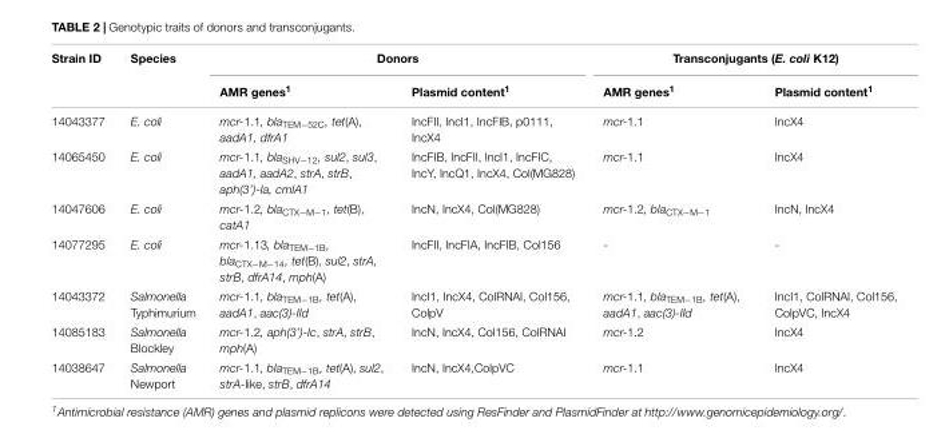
<table><thead><tr><td rowspan="2">Strain ID</td><td rowspan="2">Species</td><td colspan="2">Donors</td><td colspan="2">Transconjugants (E. coli K12)</td></tr><tr><td>AMR genes<sup>1</sup></td><td>Plasmid content<sup>1</sup></td><td>AMR genes<sup>1</sup></td><td>Plasmid content<sup>1</sup></td></tr></thead><tbody><tr><td>14043377</td><td>E. coli</td><td>mcr-1.1, bla<sub>TEM−52C</sub>, tet(A), aadA1, dfrA1</td><td>IncFII, IncI1, IncFIB, p0111, IncX4</td><td>mcr-1.1</td><td>IncX4</td></tr><tr><td>14065450</td><td>E. coli</td><td>mcr-1.1, bla<sub>SHV−12</sub>, sul2, sul3, aadA1, aadA2, strA, strB, aph(3’)-Ia, cmlA1</td><td>IncFIB, IncFII, IncI1, IncFIC, IncY, IncQ1, IncX4, Col(MG828)</td><td>mcr-1.1</td><td>IncX4</td></tr><tr><td>14047606</td><td>E. coli</td><td>mcr-1.2, bla<sub>CTX−M−1</sub>, tet(B), catA1</td><td>IncN, IncX4, Col(MG828)</td><td>mcr-1.2, bla<sub>CTX−M−1</sub></td><td>IncN, IncX4</td></tr><tr><td>14077295</td><td>E. coli</td><td>mcr-1.13, bla<sub>TEM−1B</sub>, bla<sub>CTX−M−14</sub>, tet(B), sul2, strA, strB, dfrA14, mph(A)</td><td>IncFII, IncFIA, IncFIB, Col156</td><td>-</td><td>-</td></tr><tr><td>14043372</td><td>Salmonella Typhimurium</td><td>mcr-1.1, bla<sub>TEM−1B</sub>, tet(A), aadA1, aac(3)-IId</td><td>IncI1, IncX4, ColRNAI, Col156, ColpV</td><td>mcr-1.1, bla<sub>TEM−1B</sub>, tet(A), aadA1, aac(3)-IId</td><td>IncI1, ColRNAI, Col156, ColpVC, IncX4</td></tr><tr><td>14085183</td><td>Salmonella Blockley</td><td>mcr-1.2, aph(3’)-Ic, strA, strB, mph(A)</td><td>IncN, IncX4, Col156, ColRNAI</td><td>mcr-1.2</td><td>IncX4</td></tr><tr><td>14038647</td><td>Salmonella Newport</td><td>mcr-1.1, bla<sub>TEM−1B</sub>, tet(A), sul2, strA-like, strB, dfrA14</td><td>IncN, IncX4,ColpVC</td><td>mcr-1.1</td><td>IncX4</td></tr></tbody></table>